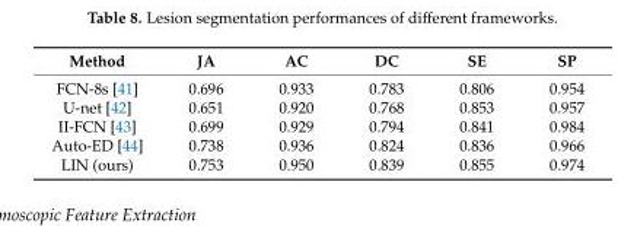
<table><thead><tr><td>Method</td><td>JA</td><td>AC</td><td>DC</td><td>SE</td><td>SP</td></tr></thead><tbody><tr><td>FCN-8s [41]</td><td>0.696</td><td>0.933</td><td>0.783</td><td>0.806</td><td>0.954</td></tr><tr><td>U-net [42]</td><td>0.651</td><td>0.920</td><td>0.768</td><td>0.853</td><td>0.957</td></tr><tr><td>II-FCN [43]</td><td>0.699</td><td>0.929</td><td>0.794</td><td>0.841</td><td>0.984</td></tr><tr><td>Auto-ED [44]</td><td>0.738</td><td>0.936</td><td>0.824</td><td>0.836</td><td>0.966</td></tr><tr><td>LIN (ours)</td><td>0.753</td><td>0.950</td><td>0.839</td><td>0.855</td><td>0.974</td></tr></tbody></table>